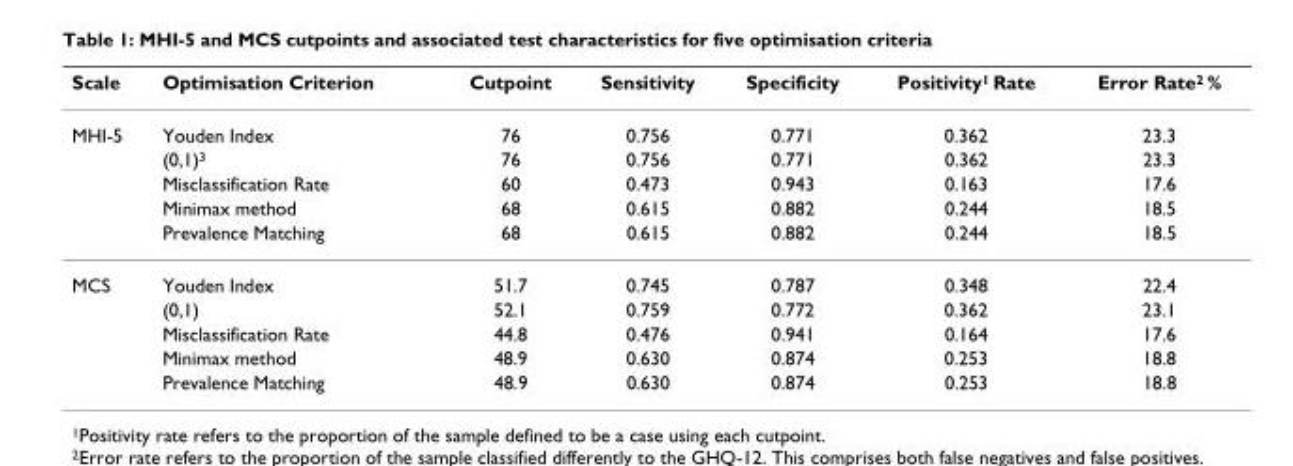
<table><thead><tr><td>Scale</td><td>Optimisation Criterion</td><td>Cutpoint</td><td>Sensitivity</td><td>Specificity</td><td>Positivity1 Rate</td><td>Error Rate2 %</td></tr></thead><tbody><tr><td rowspan="5">MHI-5</td><td>Youden Index</td><td>76</td><td>0.756</td><td>0.771</td><td>0.362</td><td>23.3</td></tr><tr><td>(0,1)<sup>3</sup></td><td>76</td><td>0.756</td><td>0.771</td><td>0.362</td><td>23.3</td></tr><tr><td>Misclassification Rate</td><td>60</td><td>0.473</td><td>0.943</td><td>0.163</td><td>17.6</td></tr><tr><td>Minimax method</td><td>68</td><td>0.615</td><td>0.882</td><td>0.244</td><td>18.5</td></tr><tr><td>Prevalence Matching</td><td>68</td><td>0.615</td><td>0.882</td><td>0.244</td><td>18.5</td></tr><tr><td rowspan="5">MCS</td><td>Youden Index</td><td>51.7</td><td>0.745</td><td>0.787</td><td>0.348</td><td>22.4</td></tr><tr><td>(0,1)</td><td>52.1</td><td>0.759</td><td>0.772</td><td>0.362</td><td>23.1</td></tr><tr><td>Misclassification Rate</td><td>44.8</td><td>0.476</td><td>0.941</td><td>0.164</td><td>17.6</td></tr><tr><td>Minimax method</td><td>48.9</td><td>0.630</td><td>0.874</td><td>0.253</td><td>18.8</td></tr><tr><td>Prevalence Matching</td><td>48.9</td><td>0.630</td><td>0.874</td><td>0.253</td><td>18.8</td></tr></tbody></table>